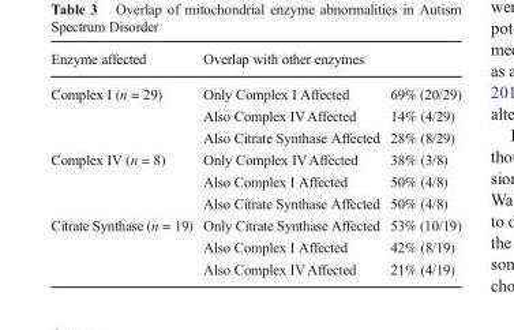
<table><thead><tr><td>Enzyme affected</td><td>Overlap with other enzymes</td><td></td></tr></thead><tbody><tr><td rowspan="3">Complex I (n = 29)</td><td>Only Complex I Affected</td><td>69% (20/29)</td></tr><tr><td>Also Complex IVAffected</td><td>14% (4/29)</td></tr><tr><td>Also Citrate Synthase Affected</td><td>28% (8/29)</td></tr><tr><td rowspan="3">Complex IV (n = 8)</td><td>Only Complex IVAffected</td><td>38% (3/8)</td></tr><tr><td>Also Complex I Affected</td><td>50% (4/8)</td></tr><tr><td>Also Citrate Synthase Affected</td><td>50% (4/8)</td></tr><tr><td rowspan="3">Citrate Synthase (n = 19)</td><td>Only Citrate Synthase Affected</td><td>53% (10/19)</td></tr><tr><td>Also Complex I Affected</td><td>42% (8/19)</td></tr><tr><td>Also Complex IVAffected</td><td>21% (4/19)</td></tr></tbody></table>